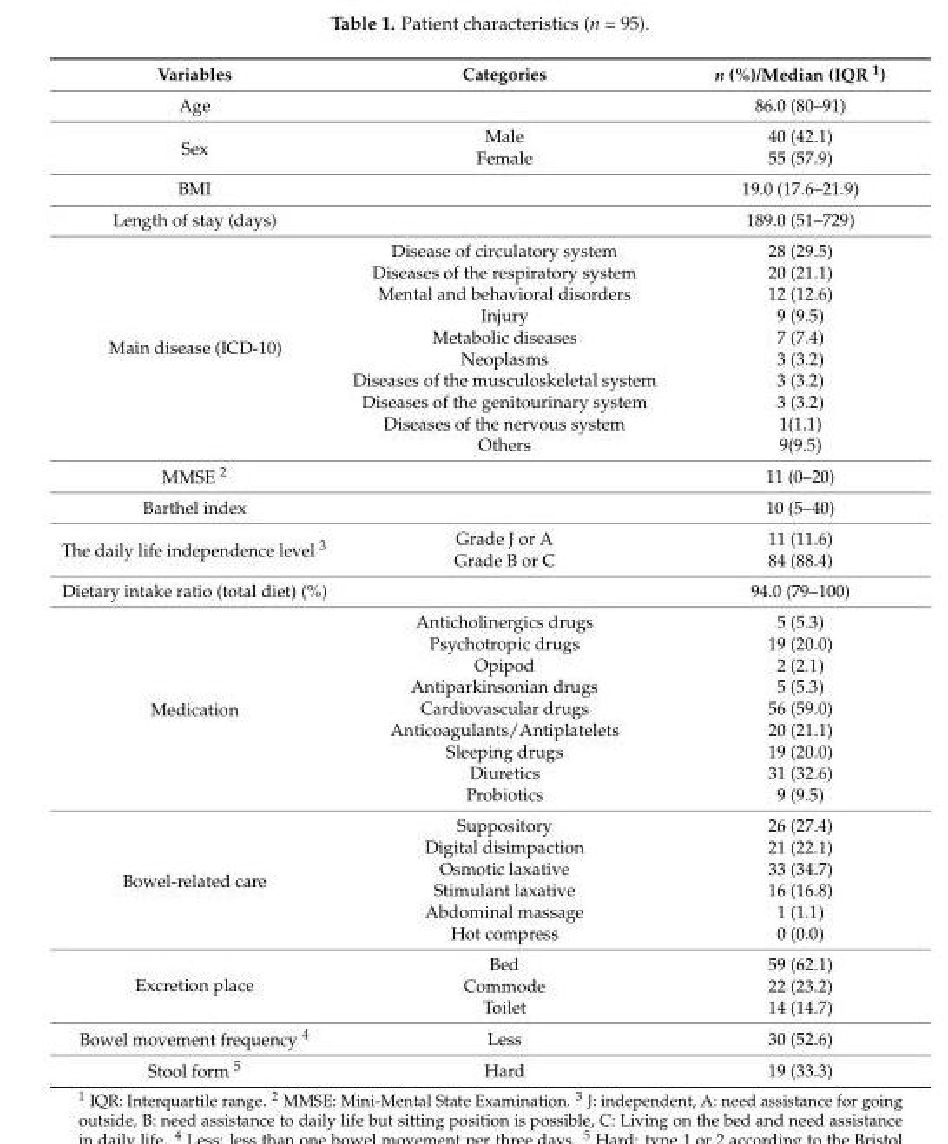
<table><thead><tr><td>Variables</td><td>Categories</td><td>n (%)/Median (IQR <sup>1</sup>)</td></tr></thead><tbody><tr><td>Age</td><td></td><td>86.0 (80–91)</td></tr><tr><td rowspan="2">Sex</td><td>Male</td><td>40 (42.1)</td></tr><tr><td>Female</td><td>55 (57.9)</td></tr><tr><td>BMI</td><td></td><td>19.0 (17.6–21.9)</td></tr><tr><td>Length of stay (days)</td><td></td><td>189.0 (51–729)</td></tr><tr><td rowspan="10">Main disease (ICD-10)</td><td>Disease of circulatory system</td><td>28 (29.5)</td></tr><tr><td>Diseases of the respiratory system</td><td>20 (21.1)</td></tr><tr><td>Mental and behavioral disorders</td><td>12 (12.6)</td></tr><tr><td>Injury</td><td>9 (9.5)</td></tr><tr><td>Metabolic diseases</td><td>7 (7.4)</td></tr><tr><td>Neoplasms</td><td>3 (3.2)</td></tr><tr><td>Diseases of the musculoskeletal system</td><td>3 (3.2)</td></tr><tr><td>Diseases of the genitourinary system</td><td>3 (3.2)</td></tr><tr><td>Diseases of the nervous system</td><td>1(1.1)</td></tr><tr><td>Others</td><td>9(9.5)</td></tr><tr><td>MMSE <sup>2</sup></td><td></td><td>11 (0–20)</td></tr><tr><td>Barthel index</td><td></td><td>10 (5–40)</td></tr><tr><td rowspan="2">The daily life independence level <sup>3</sup></td><td>Grade J or A</td><td>11 (11.6)</td></tr><tr><td>Grade B or C</td><td>84 (88.4)</td></tr><tr><td>Dietary intake ratio (total diet) (%)</td><td></td><td>94.0 (79–100)</td></tr><tr><td rowspan="9">Medication</td><td>Anticholinergics drugs</td><td>5 (5.3)</td></tr><tr><td>Psychotropic drugs</td><td>19 (20.0)</td></tr><tr><td>Opipod</td><td>2 (2.1)</td></tr><tr><td>Antiparkinsonian drugs</td><td>5 (5.3)</td></tr><tr><td>Cardiovascular drugs</td><td>56 (59.0)</td></tr><tr><td>Anticoagulants/Antiplatelets</td><td>20 (21.1)</td></tr><tr><td>Sleeping drugs</td><td>19 (20.0)</td></tr><tr><td>Diuretics</td><td>31 (32.6)</td></tr><tr><td>Probiotics</td><td>9 (9.5)</td></tr><tr><td rowspan="6">Bowel-related care</td><td>Suppository</td><td>26 (27.4)</td></tr><tr><td>Digital disimpaction</td><td>21 (22.1)</td></tr><tr><td>Osmotic laxative</td><td>33 (34.7)</td></tr><tr><td>Stimulant laxative</td><td>16 (16.8)</td></tr><tr><td>Abdominal massage</td><td>1 (1.1)</td></tr><tr><td>Hot compress</td><td>0 (0.0)</td></tr><tr><td rowspan="3">Excretion place</td><td>Bed</td><td>59 (62.1)</td></tr><tr><td>Commode</td><td>22 (23.2)</td></tr><tr><td>Toilet</td><td>14 (14.7)</td></tr><tr><td>Bowel movement frequency <sup>4</sup></td><td>Less</td><td>30 (52.6)</td></tr><tr><td>Stool form <sup>5</sup></td><td>Hard</td><td>19 (33.3)</td></tr></tbody></table>